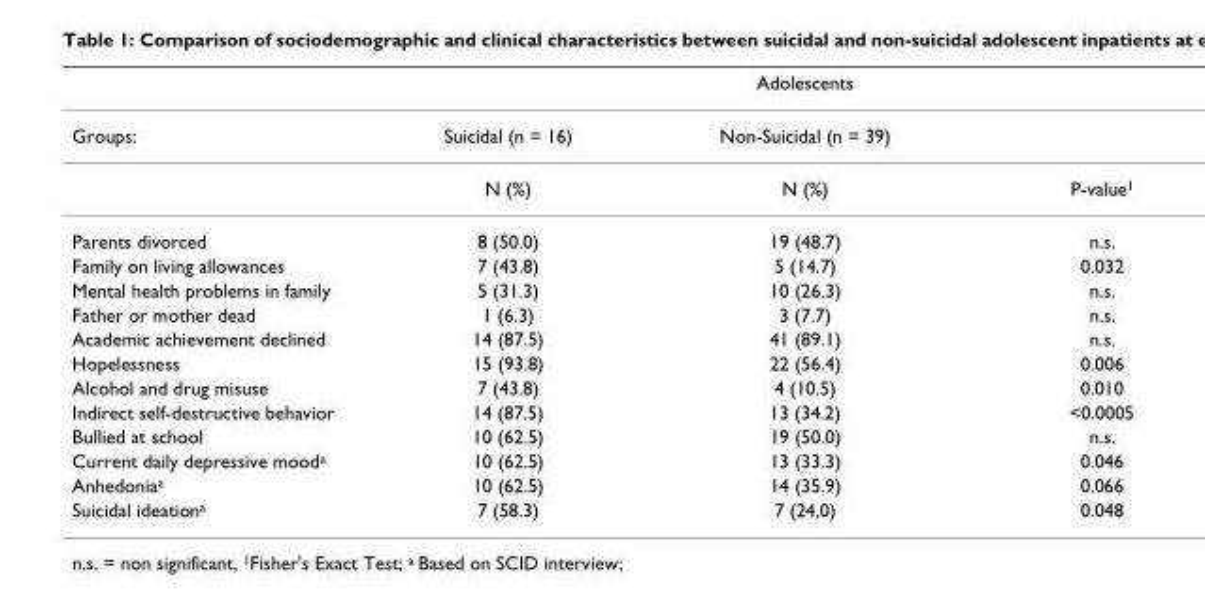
<table><thead><tr><td rowspan="2">Groups:</td><td colspan="3">Adolescents</td></tr><tr><td>Suicidal (n = 16)</td><td>Non-Suicidal (n = 39)</td><td></td></tr></thead><tbody><tr><td></td><td>N (%)</td><td>N (%)</td><td>P-value<sup>1</sup></td></tr><tr><td>Parents divorced</td><td>8 (50.0)</td><td>19 (48.7)</td><td>n.s.</td></tr><tr><td>Family on living allowances</td><td>7 (43.8)</td><td>5 (14.7)</td><td>0.032</td></tr><tr><td>Mental health problems in family</td><td>5 (31.3)</td><td>10 (26.3)</td><td>n.s.</td></tr><tr><td>Father or mother dead</td><td>1 (6.3)</td><td>3 (7.7)</td><td>n.s.</td></tr><tr><td>Academic achievement declined</td><td>14 (87.5)</td><td>41 (89.1)</td><td>n.s.</td></tr><tr><td>Hopelessness</td><td>15 (93.8)</td><td>22 (56.4)</td><td>0.006</td></tr><tr><td>Alcohol and drug misuse</td><td>7 (43.8)</td><td>4 (10.5)</td><td>0.010</td></tr><tr><td>Indirect self-destructive behavior</td><td>14 (87.5)</td><td>13 (34.2)</td><td>&lt;0.0005</td></tr><tr><td>Bullied at school</td><td>10 (62.5)</td><td>19 (50.0)</td><td>n.s.</td></tr><tr><td>Current daily depressive mood<sup>a</sup></td><td>10 (62.5)</td><td>13 (33.3)</td><td>0.046</td></tr><tr><td>Anhedonia<sup>a</sup></td><td>10 (62.5)</td><td>14 (35.9)</td><td>0.066</td></tr><tr><td>Suicidal ideation<sup>a</sup></td><td>7 (58.3)</td><td>7 (24,0)</td><td>0.048</td></tr></tbody></table>